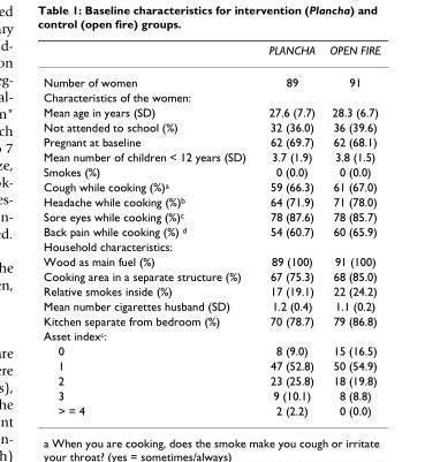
<table><thead><tr><td></td><td>PLANCHA</td><td>OPEN FIRE</td></tr></thead><tbody><tr><td>Number of women</td><td>89</td><td>91</td></tr><tr><td colspan="3">Characteristics of the women:</td></tr><tr><td>Mean age in years (SD)</td><td>27.6 (7.7)</td><td>28.3 (6.7)</td></tr><tr><td>Not attended to school (%)</td><td>32 (36.0)</td><td>36 (39.6)</td></tr><tr><td>Pregnant at baseline</td><td>62 (69.7)</td><td>62 (68.1)</td></tr><tr><td>Mean number of children &lt; 12 years (SD)</td><td>3.7 (1.9)</td><td>3.8 (1.5)</td></tr><tr><td>Smokes (%)</td><td>0 (0.0)</td><td>0 (0.0)</td></tr><tr><td>Cough while cooking (%)<sup>a</sup></td><td>59 (66.3)</td><td>61 (67.0)</td></tr><tr><td>Headache while cooking (%)<sup>b</sup></td><td>64 (71.9)</td><td>71 (78.0)</td></tr><tr><td>Sore eyes while cooking (%)<sup>c</sup></td><td>78 (87.6)</td><td>78 (85.7)</td></tr><tr><td>Back pain while cooking (%) <sup>d</sup></td><td>54 (60.7)</td><td>60 (65.9)</td></tr><tr><td colspan="3">Household characteristics:</td></tr><tr><td>Wood as main fuel (%)</td><td>89 (100)</td><td>91 (100)</td></tr><tr><td>Cooking area in a separate structure (%)</td><td>67 (75.3)</td><td>68 (85.0)</td></tr><tr><td>Relative smokes inside (%)</td><td>17 (19.1)</td><td>22 (24.2)</td></tr><tr><td>Mean number cigarettes husband (SD)</td><td>1.2 (0.4)</td><td>1.1 (0.2)</td></tr><tr><td>Kitchen separate from bedroom (%)</td><td>70 (78.7)</td><td>79 (86.8)</td></tr><tr><td colspan="3">Asset index<sup>ε</sup>:</td></tr><tr><td>0</td><td>8 (9.0)</td><td>15 (16.5)</td></tr><tr><td>1</td><td>47 (52.8)</td><td>50 (54.9)</td></tr><tr><td>2</td><td>23 (25.8)</td><td>18 (19.8)</td></tr><tr><td>3</td><td>9 (10.1)</td><td>8 (8.8)</td></tr><tr><td>&gt; = 4</td><td>2 (2.2)</td><td>0 (0.0)</td></tr></tbody></table>